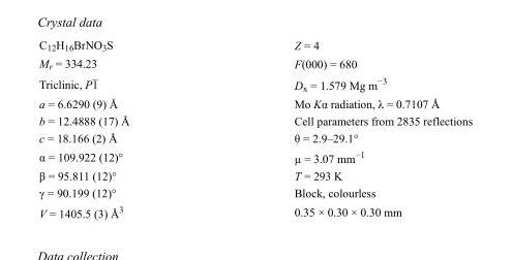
<table><tbody><tr><td>C<sub>12</sub>H<sub>16</sub>BrNO<sub>3</sub>S</td><td>Z = 4</td></tr><tr><td>M<sub>r</sub> = 334.23</td><td>F(000) = 680</td></tr><tr><td>Triclinic, P1</td><td>D<sub>x</sub> = 1.579 Mg m<sup>−3</sup></td></tr><tr><td>a = 6.6290 (9) Å</td><td>Mo Kα radiation, λ = 0.7107 Å</td></tr><tr><td>b = 12.4888 (17) Å</td><td>Cell parameters from 2835 reflections</td></tr><tr><td>c = 18.166 (2) Å</td><td>θ = 2.9–29.1°</td></tr><tr><td>α = 109.922 (12)°</td><td>µ = 3.07 mm<sup>−1</sup></td></tr><tr><td>β = 95.811 (12)°</td><td>T = 293 K</td></tr><tr><td>γ = 90.199 (12)°</td><td>Block, colourless</td></tr><tr><td>V = 1405.5 (3) Å<sup>3</sup></td><td>0.35 × 0.30 × 0.30 mm</td></tr></tbody></table>